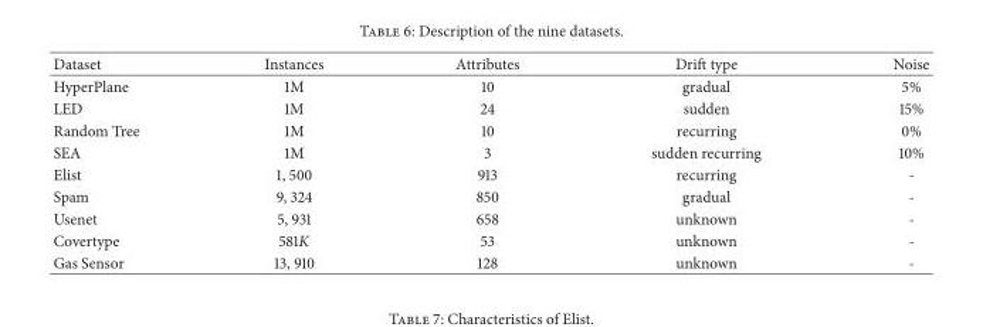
<table><thead><tr><td>Dataset</td><td>Instances</td><td>Attributes</td><td>Drift type</td><td>Noise</td></tr></thead><tbody><tr><td>HyperPlane</td><td>1M</td><td>10</td><td>gradual</td><td>5%</td></tr><tr><td>LED</td><td>1M</td><td>24</td><td>sudden</td><td>15%</td></tr><tr><td>Random Tree</td><td>1M</td><td>10</td><td>recurring</td><td>0%</td></tr><tr><td>SEA</td><td>1M</td><td>3</td><td>sudden recurring</td><td>10%</td></tr><tr><td>Elist</td><td>1, 500</td><td>913</td><td>recurring</td><td>-</td></tr><tr><td>Spam</td><td>9, 324</td><td>850</td><td>gradual</td><td>-</td></tr><tr><td>Usenet</td><td>5, 931</td><td>658</td><td>unknown</td><td>-</td></tr><tr><td>Covertype</td><td>581K</td><td>53</td><td>unknown</td><td>-</td></tr><tr><td>Gas Sensor</td><td>13, 910</td><td>128</td><td>unknown</td><td>-</td></tr></tbody></table>